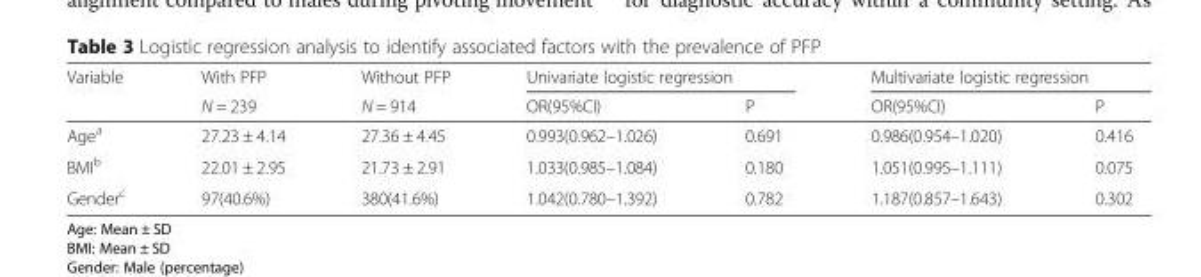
<table><thead><tr><td rowspan="2">Variable</td><td rowspan="2">With PFP N = 239</td><td rowspan="2">Without PFP N = 914</td><td colspan="2">Univariate logistic regression</td><td colspan="2">Multivariate logistic regression</td></tr><tr><td>OR(95%CI)</td><td>P</td><td>OR(95%CI)</td><td>P</td></tr></thead><tbody><tr><td>Age<sup>a</sup></td><td>27.23 ± 4.14</td><td>27.36 ± 4.45</td><td>0.993(0.962–1.026)</td><td>0.691</td><td>0.986(0.954–1.020)</td><td>0.416</td></tr><tr><td>BMI<sup>b</sup></td><td>22.01 ± 2.95</td><td>21.73 ± 2.91</td><td>1.033(0.985–1.084)</td><td>0.180</td><td>1.051(0.995–1.111)</td><td>0.075</td></tr><tr><td>Gender<sup>c</sup></td><td>97(40.6%)</td><td>380(41.6%)</td><td>1.042(0.780–1.392)</td><td>0.782</td><td>1.187(0.857–1.643)</td><td>0.302</td></tr></tbody></table>